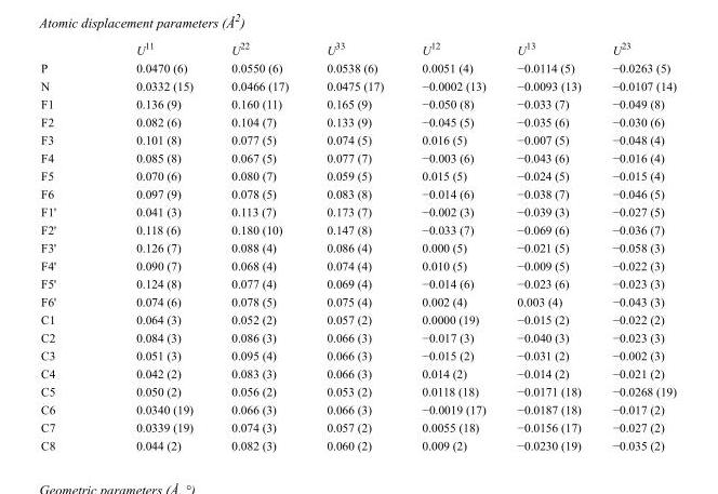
<table><thead><tr><td></td><td>U<sup>11</sup></td><td>U<sup>22</sup></td><td>U<sup>33</sup></td><td>U<sup>12</sup></td><td>U<sup>13</sup></td><td>U<sup>23</sup></td></tr></thead><tbody><tr><td>P</td><td>0.0470 (6)</td><td>0.0550 (6)</td><td>0.0538 (6)</td><td>0.0051 (4)</td><td>−0.0114 (5)</td><td>−0.0263 (5)</td></tr><tr><td>N</td><td>0.0332 (15)</td><td>0.0466 (17)</td><td>0.0475 (17)</td><td>−0.0002 (13)</td><td>−0.0093 (13)</td><td>−0.0107 (14)</td></tr><tr><td>F1</td><td>0.136 (9)</td><td>0.160 (11)</td><td>0.165 (9)</td><td>−0.050 (8)</td><td>−0.033 (7)</td><td>−0.049 (8)</td></tr><tr><td>F2</td><td>0.082 (6)</td><td>0.104 (7)</td><td>0.133 (9)</td><td>−0.045 (5)</td><td>−0.035 (6)</td><td>−0.030 (6)</td></tr><tr><td>F3</td><td>0.101 (8)</td><td>0.077 (5)</td><td>0.074 (5)</td><td>0.016 (5)</td><td>−0.007 (5)</td><td>−0.048 (4)</td></tr><tr><td>F4</td><td>0.085 (8)</td><td>0.067 (5)</td><td>0.077 (7)</td><td>−0.003 (6)</td><td>−0.043 (6)</td><td>−0.016 (4)</td></tr><tr><td>F5</td><td>0.070 (6)</td><td>0.080 (7)</td><td>0.059 (5)</td><td>0.015 (5)</td><td>−0.024 (5)</td><td>−0.015 (4)</td></tr><tr><td>F6</td><td>0.097 (9)</td><td>0.078 (5)</td><td>0.083 (8)</td><td>−0.014 (6)</td><td>−0.038 (7)</td><td>−0.046 (5)</td></tr><tr><td>F1&#x27;</td><td>0.041 (3)</td><td>0.113 (7)</td><td>0.173 (7)</td><td>−0.002 (3)</td><td>−0.039 (3)</td><td>−0.027 (5)</td></tr><tr><td>F2&#x27;</td><td>0.118 (6)</td><td>0.180 (10)</td><td>0.147 (8)</td><td>−0.033 (7)</td><td>−0.069 (6)</td><td>−0.036 (7)</td></tr><tr><td>F3&#x27;</td><td>0.126 (7)</td><td>0.088 (4)</td><td>0.086 (4)</td><td>0.000 (5)</td><td>−0.021 (5)</td><td>−0.058 (3)</td></tr><tr><td>F4&#x27;</td><td>0.090 (7)</td><td>0.068 (4)</td><td>0.074 (4)</td><td>0.010 (5)</td><td>−0.009 (5)</td><td>−0.022 (3)</td></tr><tr><td>F5&#x27;</td><td>0.124 (8)</td><td>0.077 (4)</td><td>0.069 (4)</td><td>−0.014 (6)</td><td>−0.023 (6)</td><td>−0.023 (3)</td></tr><tr><td>F6&#x27;</td><td>0.074 (6)</td><td>0.078 (5)</td><td>0.075 (4)</td><td>0.002 (4)</td><td>0.003 (4)</td><td>−0.043 (3)</td></tr><tr><td>C1</td><td>0.064 (3)</td><td>0.052 (2)</td><td>0.057 (2)</td><td>0.0000 (19)</td><td>−0.015 (2)</td><td>−0.022 (2)</td></tr><tr><td>C2</td><td>0.084 (3)</td><td>0.086 (3)</td><td>0.066 (3)</td><td>−0.017 (3)</td><td>−0.040 (3)</td><td>−0.023 (3)</td></tr><tr><td>C3</td><td>0.051 (3)</td><td>0.095 (4)</td><td>0.066 (3)</td><td>−0.015 (2)</td><td>−0.031 (2)</td><td>−0.002 (3)</td></tr><tr><td>C4</td><td>0.042 (2)</td><td>0.083 (3)</td><td>0.066 (3)</td><td>0.014 (2)</td><td>−0.014 (2)</td><td>−0.021 (2)</td></tr><tr><td>C5</td><td>0.050 (2)</td><td>0.056 (2)</td><td>0.053 (2)</td><td>0.0118 (18)</td><td>−0.0171 (18)</td><td>−0.0268 (19)</td></tr><tr><td>C6</td><td>0.0340 (19)</td><td>0.066 (3)</td><td>0.066 (3)</td><td>−0.0019 (17)</td><td>−0.0187 (18)</td><td>−0.017 (2)</td></tr><tr><td>C7</td><td>0.0339 (19)</td><td>0.074 (3)</td><td>0.057 (2)</td><td>0.0055 (18)</td><td>−0.0156 (17)</td><td>−0.027 (2)</td></tr><tr><td>C8</td><td>0.044 (2)</td><td>0.082 (3)</td><td>0.060 (2)</td><td>0.009 (2)</td><td>−0.0230 (19)</td><td>−0.035 (2)</td></tr></tbody></table>